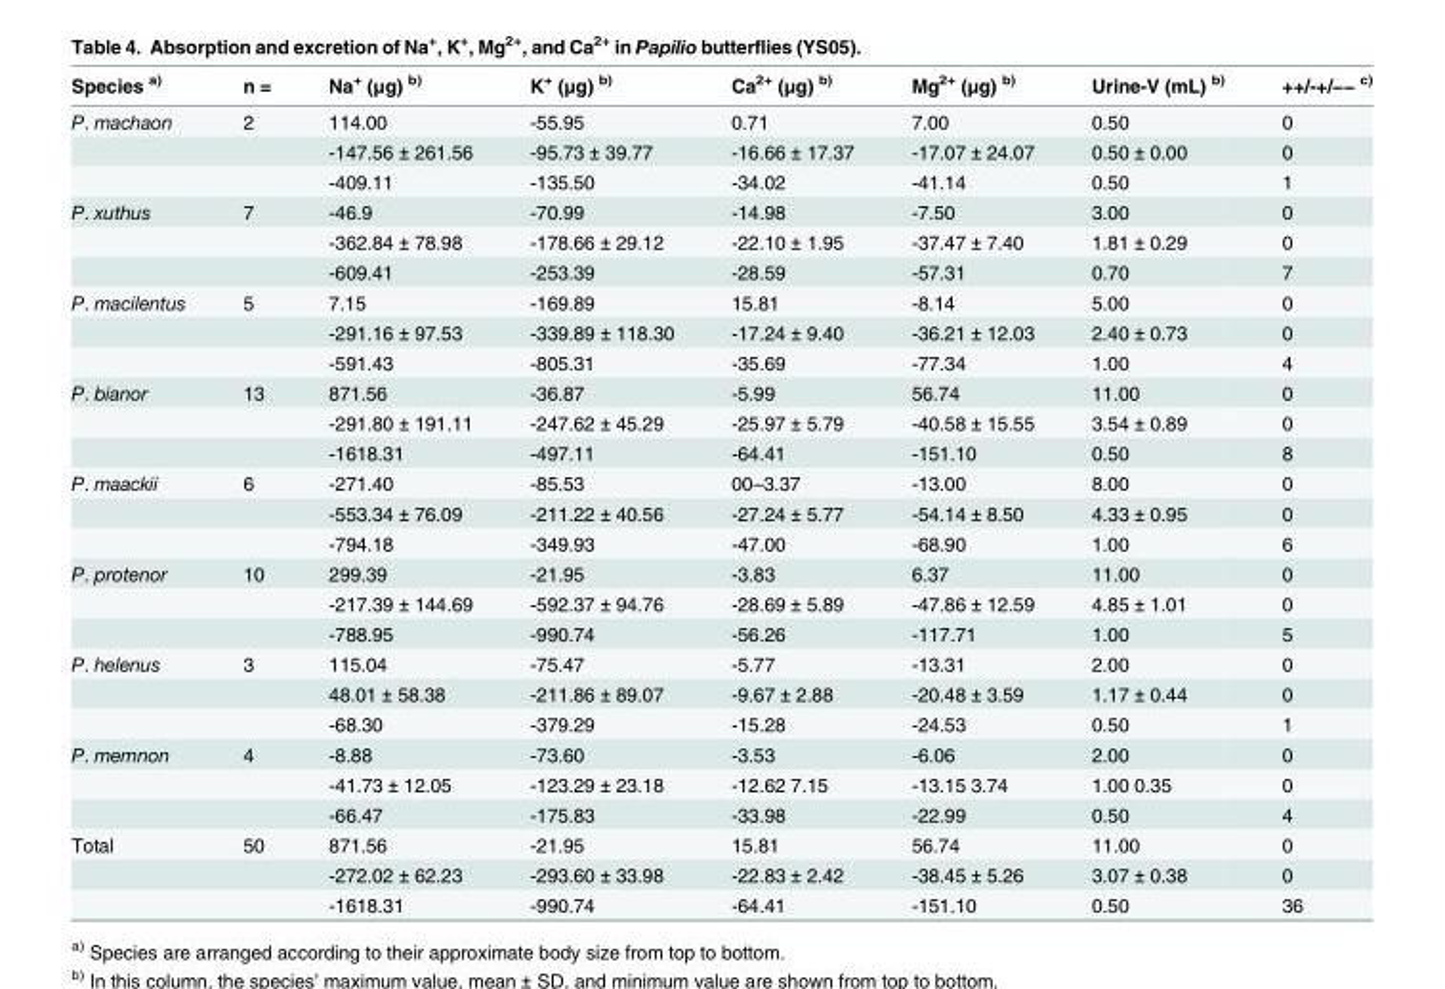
<table><thead><tr><td>Species <sup>a)</sup></td><td>n =</td><td>Na<sup>+</sup> (μg) <sup>b)</sup></td><td>K<sup>+</sup> (μg) <sup>b)</sup></td><td>Ca<sup>2+</sup> (μg) <sup>b)</sup></td><td>Mg<sup>2+</sup> (μg) <sup>b)</sup></td><td>Urine-V (mL) <sup>b)</sup></td><td>++/-+/−− <sup>c)</sup></td></tr></thead><tbody><tr><td rowspan="3">P. machaon</td><td>2</td><td>114.00</td><td>-55.95</td><td>0.71</td><td>7.00</td><td>0.50</td><td>0</td></tr><tr><td></td><td>-147.56 ± 261.56</td><td>-95.73 ± 39.77</td><td>-16.66 ± 17.37</td><td>-17.07 ± 24.07</td><td>0.50 ± 0.00</td><td>0</td></tr><tr><td></td><td>-409.11</td><td>-135.50</td><td>-34.02</td><td>-41.14</td><td>0.50</td><td>1</td></tr><tr><td rowspan="3">P. xuthus</td><td>7</td><td>-46.9</td><td>-70.99</td><td>-14.98</td><td>-7.50</td><td>3.00</td><td>0</td></tr><tr><td></td><td>-362.84 ± 78.98</td><td>-178.66 ± 29.12</td><td>-22.10 ± 1.95</td><td>-37.47 ± 7.40</td><td>1.81 ± 0.29</td><td>0</td></tr><tr><td></td><td>-609.41</td><td>-253.39</td><td>-28.59</td><td>-57.31</td><td>0.70</td><td>7</td></tr><tr><td rowspan="3">P. macilentus</td><td>5</td><td>7.15</td><td>-169.89</td><td>15.81</td><td>-8.14</td><td>5.00</td><td>0</td></tr><tr><td></td><td>-291.16 ± 97.53</td><td>-339.89 ± 118.30</td><td>-17.24 ± 9.40</td><td>-36.21 ± 12.03</td><td>2.40 ± 0.73</td><td>0</td></tr><tr><td></td><td>-591.43</td><td>-805.31</td><td>-35.69</td><td>-77.34</td><td>1.00</td><td>4</td></tr><tr><td rowspan="3">P. bianor</td><td>13</td><td>871.56</td><td>-36.87</td><td>-5.99</td><td>56.74</td><td>11.00</td><td>0</td></tr><tr><td></td><td>-291.80 ± 191.11</td><td>-247.62 ± 45.29</td><td>-25.97 ± 5.79</td><td>-40.58 ± 15.55</td><td>3.54 ± 0.89</td><td>0</td></tr><tr><td></td><td>-1618.31</td><td>-497.11</td><td>-64.41</td><td>-151.10</td><td>0.50</td><td>8</td></tr><tr><td rowspan="3">P. maackii</td><td>6</td><td>-271.40</td><td>-85.53</td><td>00–3.37</td><td>-13.00</td><td>8.00</td><td>0</td></tr><tr><td></td><td>-553.34 ± 76.09</td><td>-211.22 ± 40.56</td><td>-27.24 ± 5.77</td><td>-54.14 ± 8.50</td><td>4.33 ± 0.95</td><td>0</td></tr><tr><td></td><td>-794.18</td><td>-349.93</td><td>-47.00</td><td>-68.90</td><td>1.00</td><td>6</td></tr><tr><td rowspan="3">P. protenor</td><td>10</td><td>299.39</td><td>-21.95</td><td>-3.83</td><td>6.37</td><td>11.00</td><td>0</td></tr><tr><td></td><td>-217.39 ± 144.69</td><td>-592.37 ± 94.76</td><td>-28.69 ± 5.89</td><td>-47.86 ± 12.59</td><td>4.85 ± 1.01</td><td>0</td></tr><tr><td></td><td>-788.95</td><td>-990.74</td><td>-56.26</td><td>-117.71</td><td>1.00</td><td>5</td></tr><tr><td rowspan="3">P. helenus</td><td>3</td><td>115.04</td><td>-75.47</td><td>-5.77</td><td>-13.31</td><td>2.00</td><td>0</td></tr><tr><td></td><td>48.01 ± 58.38</td><td>-211.86 ± 89.07</td><td>-9.67 ± 2.88</td><td>-20.48 ± 3.59</td><td>1.17 ± 0.44</td><td>0</td></tr><tr><td></td><td>-68.30</td><td>-379.29</td><td>-15.28</td><td>-24.53</td><td>0.50</td><td>1</td></tr><tr><td rowspan="3">P. memnon</td><td>4</td><td>-8.88</td><td>-73.60</td><td>-3.53</td><td>-6.06</td><td>2.00</td><td>0</td></tr><tr><td></td><td>-41.73 ± 12.05</td><td>-123.29 ± 23.18</td><td>-12.62 7.15</td><td>-13.15 3.74</td><td>1.00 0.35</td><td>0</td></tr><tr><td></td><td>-66.47</td><td>-175.83</td><td>-33.98</td><td>-22.99</td><td>0.50</td><td>4</td></tr><tr><td rowspan="3">Total</td><td>50</td><td>871.56</td><td>-21.95</td><td>15.81</td><td>56.74</td><td>11.00</td><td>0</td></tr><tr><td></td><td>-272.02 ± 62.23</td><td>-293.60 ± 33.98</td><td>-22.83 ± 2.42</td><td>-38.45 ± 5.26</td><td>3.07 ± 0.38</td><td>0</td></tr><tr><td></td><td>-1618.31</td><td>-990.74</td><td>-64.41</td><td>-151.10</td><td>0.50</td><td>36</td></tr></tbody></table>